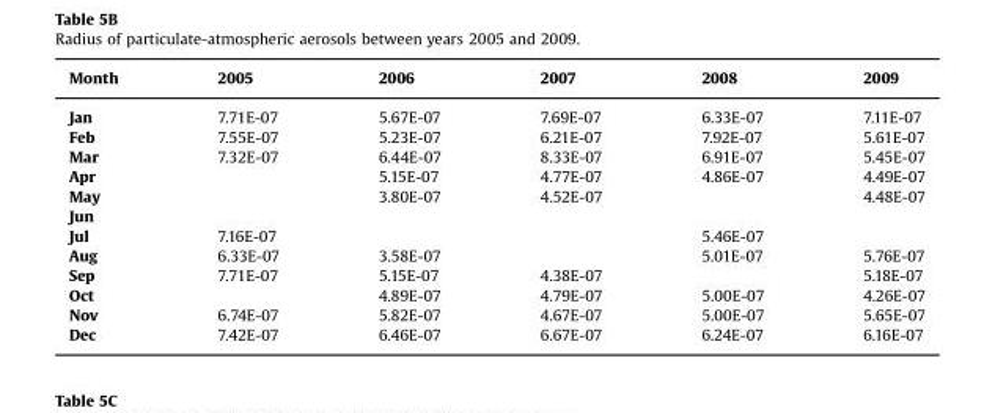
<table><thead><tr><td>Month</td><td>2005</td><td>2006</td><td>2007</td><td>2008</td><td>2009</td></tr></thead><tbody><tr><td>Jan</td><td>7.71E-07</td><td>5.67E-07</td><td>7.69E-07</td><td>6.33E-07</td><td>7.11E-07</td></tr><tr><td>Feb</td><td>7.55E-07</td><td>5.23E-07</td><td>6.21E-07</td><td>7.92E-07</td><td>5.61E-07</td></tr><tr><td>Mar</td><td>7.32E-07</td><td>6.44E-07</td><td>8.33E-07</td><td>6.91E-07</td><td>5.45E-07</td></tr><tr><td>Apr</td><td></td><td>5.15E-07</td><td>4.77E-07</td><td>4.86E-07</td><td>4.49E-07</td></tr><tr><td>May</td><td></td><td>3.80E-07</td><td>4.52E-07</td><td></td><td>4.48E-07</td></tr><tr><td colspan="6">Jun</td></tr><tr><td>Jul</td><td>7.16E-07</td><td></td><td></td><td>5.46E-07</td><td></td></tr><tr><td>Aug</td><td>6.33E-07</td><td>3.58E-07</td><td></td><td>5.01E-07</td><td>5.76E-07</td></tr><tr><td>Sep</td><td>7.71E-07</td><td>5.15E-07</td><td>4.38E-07</td><td></td><td>5.18E-07</td></tr><tr><td>Oct</td><td></td><td>4.89E-07</td><td>4.79E-07</td><td>5.00E-07</td><td>4.26E-07</td></tr><tr><td>Nov</td><td>6.74E-07</td><td>5.82E-07</td><td>4.67E-07</td><td>5.00E-07</td><td>5.65E-07</td></tr><tr><td>Dec</td><td>7.42E-07</td><td>6.46E-07</td><td>6.67E-07</td><td>6.24E-07</td><td>6.16E-07</td></tr></tbody></table>